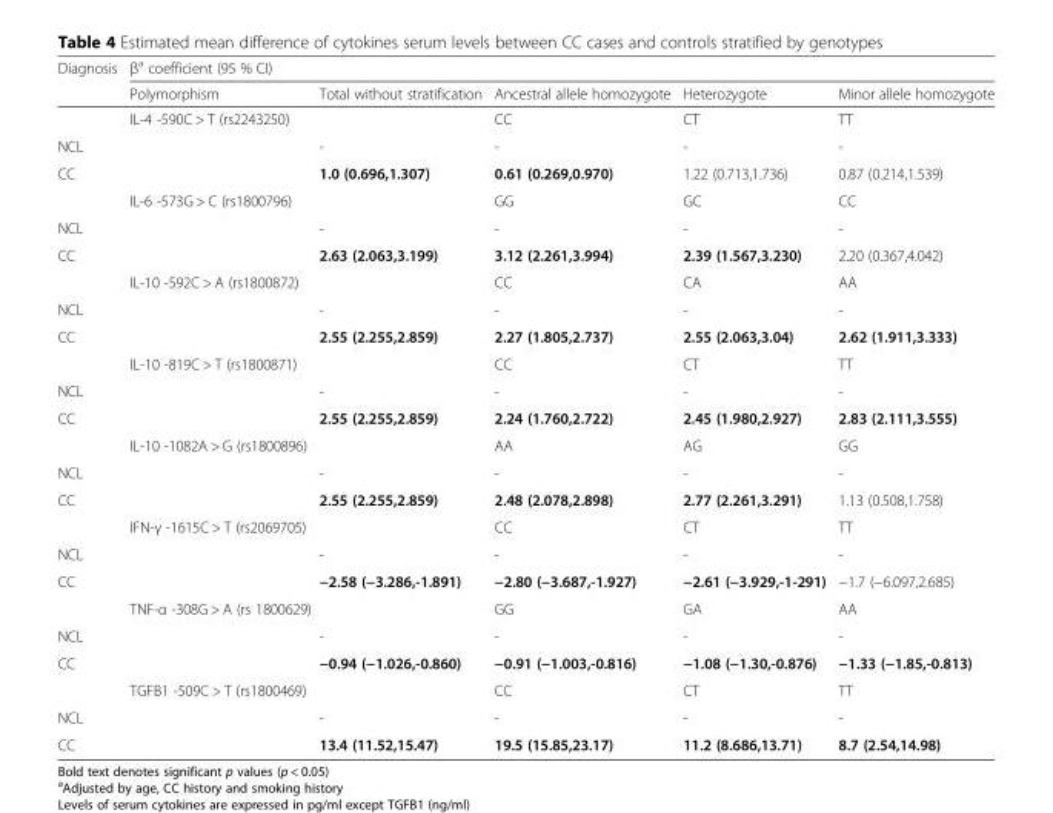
<table><thead><tr><td rowspan="2">Diagnosis</td><td colspan="5">β<sup>a</sup> coefficient (95 % CI)</td></tr><tr><td>Polymorphism</td><td>Total without stratification</td><td>Ancestral allele homozygote</td><td>Heterozygote</td><td>Minor allele homozygote</td></tr></thead><tbody><tr><td></td><td>IL-4 -590C &gt; T (rs2243250)</td><td></td><td>CC</td><td>CT</td><td>TT</td></tr><tr><td>NCL</td><td></td><td>-</td><td>-</td><td>-</td><td>-</td></tr><tr><td rowspan="2">CC</td><td></td><td>1.0 (0.696,1.307)</td><td>0.61 (0.269,0.970)</td><td>1.22 (0.713,1.736)</td><td>0.87 (0.214,1.539)</td></tr><tr><td>IL-6 -573G &gt; C (rs1800796)</td><td></td><td>GG</td><td>GC</td><td>CC</td></tr><tr><td>NCL</td><td></td><td>-</td><td>-</td><td>-</td><td>-</td></tr><tr><td rowspan="2">CC</td><td></td><td>2.63 (2.063,3.199)</td><td>3.12 (2.261,3.994)</td><td>2.39 (1.567,3.230)</td><td>2.20 (0.367,4.042)</td></tr><tr><td>IL-10 -592C &gt; A (rs1800872)</td><td></td><td>CC</td><td>CA</td><td>AA</td></tr><tr><td>NCL</td><td></td><td>-</td><td>-</td><td>-</td><td>-</td></tr><tr><td rowspan="2">CC</td><td></td><td>2.55 (2.255,2.859)</td><td>2.27 (1.805,2.737)</td><td>2.55 (2.063,3.04)</td><td>2.62 (1.911,3.333)</td></tr><tr><td>IL-10 -819C &gt; T (rs1800871)</td><td></td><td>CC</td><td>CT</td><td>TT</td></tr><tr><td>NCL</td><td></td><td>-</td><td>-</td><td>-</td><td>-</td></tr><tr><td rowspan="2">CC</td><td></td><td>2.55 (2.255,2.859)</td><td>2.24 (1.760,2.722)</td><td>2.45 (1.980,2.927)</td><td>2.83 (2.111,3.555)</td></tr><tr><td>IL-10 -1082A &gt; G (rs1800896)</td><td></td><td>AA</td><td>AG</td><td>GG</td></tr><tr><td>NCL</td><td></td><td>-</td><td>-</td><td>-</td><td>-</td></tr><tr><td rowspan="2">CC</td><td></td><td>2.55 (2.255,2.859)</td><td>2.48 (2.078,2.898)</td><td>2.77 (2.261,3.291)</td><td>1.13 (0.508,1.758)</td></tr><tr><td colspan="2">IFN-γ -1615C &gt; T (rs2069705)</td><td>CC</td><td>CT</td><td>TT</td></tr><tr><td>NCL</td><td></td><td>-</td><td>-</td><td>-</td><td>-</td></tr><tr><td rowspan="2">CC</td><td></td><td>−2.58 (−3.286,-1.891)</td><td>−2.80 (−3.687,-1.927)</td><td>−2.61 (−3.929,-1-291)</td><td>−1.7 (−6.097,2.685)</td></tr><tr><td colspan="2">TNF-α -308G &gt; A (rs 1800629)</td><td>GG</td><td>GA</td><td>AA</td></tr><tr><td>NCL</td><td></td><td>-</td><td>-</td><td>-</td><td>-</td></tr><tr><td rowspan="2">CC</td><td></td><td>−0.94 (−1.026,-0.860)</td><td>−0.91 (−1.003,-0.816)</td><td>−1.08 (−1.30,-0.876)</td><td>−1.33 (−1.85,-0.813)</td></tr><tr><td colspan="2">TGFB1 -509C &gt; T (rs1800469)</td><td>CC</td><td>CT</td><td>TT</td></tr><tr><td>NCL</td><td></td><td>-</td><td>-</td><td>-</td><td>-</td></tr><tr><td>CC</td><td></td><td>13.4 (11.52,15.47)</td><td>19.5 (15.85,23.17)</td><td>11.2 (8.686,13.71)</td><td>8.7 (2.54,14.98)</td></tr></tbody></table>